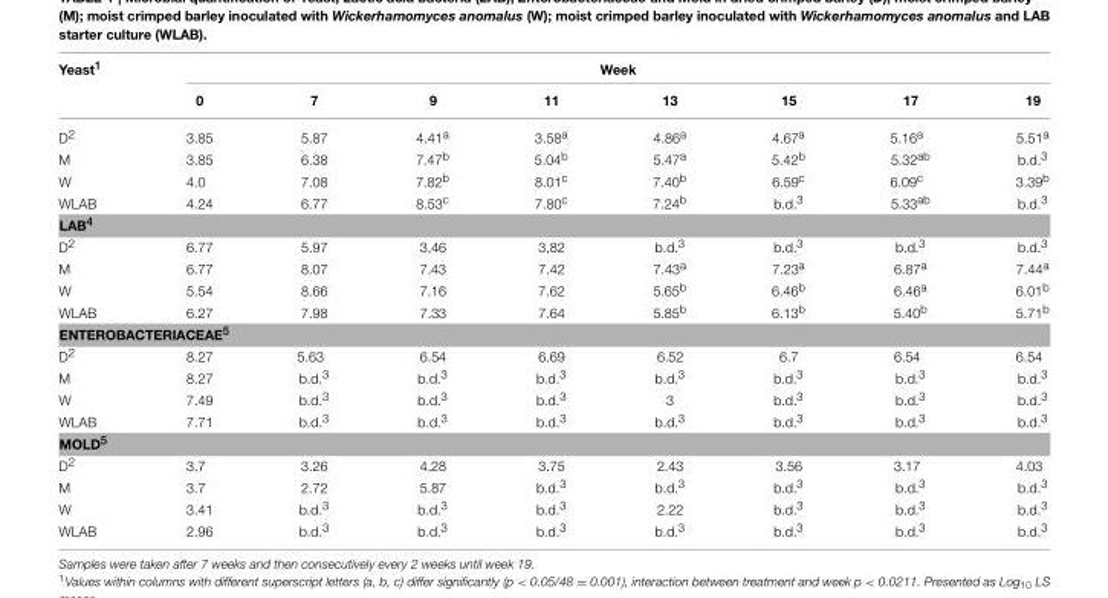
<table><thead><tr><td rowspan="2">Yeast<sup>1</sup></td><td colspan="8">Week</td></tr><tr><td>0</td><td>7</td><td>9</td><td>11</td><td>13</td><td>15</td><td>17</td><td>19</td></tr></thead><tbody><tr><td>D<sup>2</sup></td><td>3.85</td><td>5.87</td><td>4.41<sup>a</sup></td><td>3.58<sup>a</sup></td><td>4.86<sup>a</sup></td><td>4.67<sup>a</sup></td><td>5.16<sup>a</sup></td><td>5.51<sup>a</sup></td></tr><tr><td>M</td><td>3.85</td><td>6.38</td><td>7.47<sup>b</sup></td><td>5.04<sup>b</sup></td><td>5.47<sup>a</sup></td><td>5.42<sup>b</sup></td><td>5.32<sup>ab</sup></td><td>b.d.<sup>3</sup></td></tr><tr><td>W</td><td>4.0</td><td>7.08</td><td>7.82<sup>b</sup></td><td>8.01<sup>c</sup></td><td>7.40<sup>b</sup></td><td>6.59<sup>c</sup></td><td>6.09<sup>c</sup></td><td>3.39<sup>b</sup></td></tr><tr><td>WLAB</td><td>4.24</td><td>6.77</td><td>8.53<sup>c</sup></td><td>7.80<sup>c</sup></td><td>7.24<sup>b</sup></td><td>b.d.<sup>3</sup></td><td>5.33<sup>ab</sup></td><td>b.d.<sup>3</sup></td></tr><tr><td colspan="9">LAB<sup>4</sup></td></tr><tr><td>D<sup>2</sup></td><td>6.77</td><td>5.97</td><td>3,46</td><td>3,82</td><td>b.d.<sup>3</sup></td><td>b.d.<sup>3</sup></td><td>b.d.<sup>3</sup></td><td>b.d.<sup>3</sup></td></tr><tr><td>M</td><td>6.77</td><td>8.07</td><td>7.43</td><td>7.42</td><td>7.43<sup>a</sup></td><td>7.23<sup>a</sup></td><td>6.87<sup>a</sup></td><td>7.44<sup>a</sup></td></tr><tr><td>W</td><td>5.54</td><td>8.66</td><td>7.16</td><td>7.62</td><td>5.65<sup>b</sup></td><td>6.46<sup>b</sup></td><td>6.46<sup>a</sup></td><td>6.01<sup>b</sup></td></tr><tr><td>WLAB</td><td>6.27</td><td>7.98</td><td>7.33</td><td>7.64</td><td>5.85<sup>b</sup></td><td>6.13<sup>b</sup></td><td>5.40<sup>b</sup></td><td>5.71<sup>b</sup></td></tr><tr><td colspan="9">ENTEROBACTERIACEAE<sup>5</sup></td></tr><tr><td>D<sup>2</sup></td><td>8.27</td><td>5.63</td><td>6.54</td><td>6.69</td><td>6.52</td><td>6.7</td><td>6.54</td><td>6.54</td></tr><tr><td>M</td><td>8.27</td><td>b.d.<sup>3</sup></td><td>b.d.<sup>3</sup></td><td>b.d.<sup>3</sup></td><td>b.d.<sup>3</sup></td><td>b.d.<sup>3</sup></td><td>b.d.<sup>3</sup></td><td>b.d.<sup>3</sup></td></tr><tr><td>W</td><td>7.49</td><td>b.d.<sup>3</sup></td><td>b.d.<sup>3</sup></td><td>b.d.<sup>3</sup></td><td>3</td><td>b.d.<sup>3</sup></td><td>b.d.<sup>3</sup></td><td>b.d.<sup>3</sup></td></tr><tr><td>WLAB</td><td>7.71</td><td>b.d.<sup>3</sup></td><td>b.d.<sup>3</sup></td><td>b.d.<sup>3</sup></td><td>b.d.<sup>3</sup></td><td>b.d.<sup>3</sup></td><td>b.d.<sup>3</sup></td><td>b.d.<sup>3</sup></td></tr><tr><td colspan="9">MOLD<sup>5</sup></td></tr><tr><td>D<sup>2</sup></td><td>3.7</td><td>3.26</td><td>4.28</td><td>3.75</td><td>2.43</td><td>3.56</td><td>3.17</td><td>4.03</td></tr><tr><td>M</td><td>3.7</td><td>2.72</td><td>5.87</td><td>b.d.<sup>3</sup></td><td>b.d.<sup>3</sup></td><td>b.d.<sup>3</sup></td><td>b.d.<sup>3</sup></td><td>b.d.<sup>3</sup></td></tr><tr><td>W</td><td>3.41</td><td>b.d.<sup>3</sup></td><td>b.d.<sup>3</sup></td><td>b.d.<sup>3</sup></td><td>2.22</td><td>b.d.<sup>3</sup></td><td>b.d.<sup>3</sup></td><td>b.d.<sup>3</sup></td></tr><tr><td>WLAB</td><td>2.96</td><td>b.d.<sup>3</sup></td><td>b.d.<sup>3</sup></td><td>b.d.<sup>3</sup></td><td>b.d.<sup>3</sup></td><td>b.d.<sup>3</sup></td><td>b.d.<sup>3</sup></td><td>b.d.<sup>3</sup></td></tr></tbody></table>